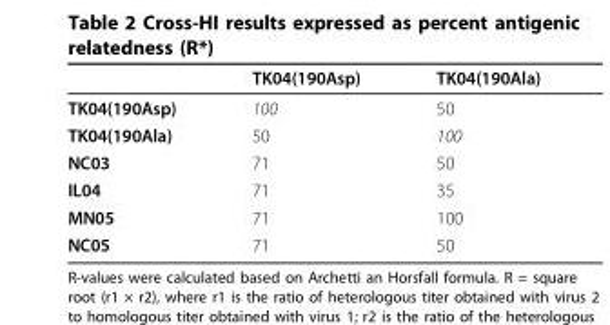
<table><thead><tr><td></td><td>TK04(190Asp)</td><td>TK04(190Ala)</td></tr></thead><tbody><tr><td>TK04(190Asp)</td><td>100</td><td>50</td></tr><tr><td>TK04(190Ala)</td><td>50</td><td>100</td></tr><tr><td>NC03</td><td>71</td><td>50</td></tr><tr><td>IL04</td><td>71</td><td>35</td></tr><tr><td>MN05</td><td>71</td><td>100</td></tr><tr><td>NC05</td><td>71</td><td>50</td></tr></tbody></table>